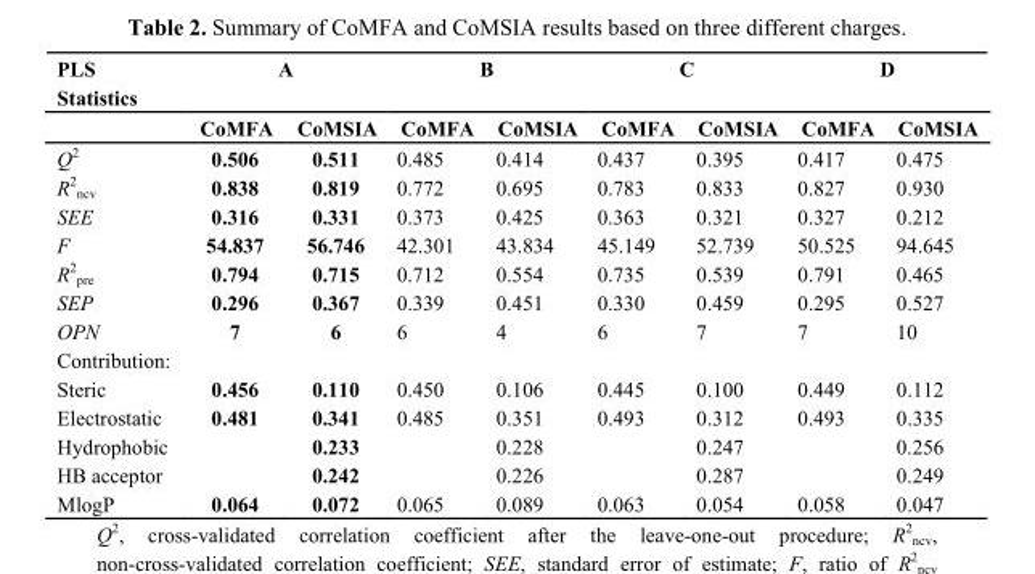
<table><thead><tr><td rowspan="2">PLS Statistics</td><td colspan="2">A</td><td colspan="2">B</td><td colspan="2">C</td><td colspan="2">D</td></tr><tr><td>CoMFA</td><td>CoMSIA</td><td>CoMFA</td><td>CoMSIA</td><td>CoMFA</td><td>CoMSIA</td><td>CoMFA</td><td>CoMSIA</td></tr></thead><tbody><tr><td>Q<sup>2</sup></td><td>0.506</td><td>0.511</td><td>0.485</td><td>0.414</td><td>0.437</td><td>0.395</td><td>0.417</td><td>0.475</td></tr><tr><td>R<sup>2</sup> <sub>ncv</sub></td><td>0.838</td><td>0.819</td><td>0.772</td><td>0.695</td><td>0.783</td><td>0.833</td><td>0.827</td><td>0.930</td></tr><tr><td>SEE</td><td>0.316</td><td>0.331</td><td>0.373</td><td>0.425</td><td>0.363</td><td>0.321</td><td>0.327</td><td>0.212</td></tr><tr><td>F</td><td>54.837</td><td>56.746</td><td>42.301</td><td>43.834</td><td>45.149</td><td>52.739</td><td>50.525</td><td>94.645</td></tr><tr><td>R<sup>2</sup> <sub>pre</sub></td><td>0.794</td><td>0.715</td><td>0.712</td><td>0.554</td><td>0.735</td><td>0.539</td><td>0.791</td><td>0.465</td></tr><tr><td>SEP</td><td>0.296</td><td>0.367</td><td>0.339</td><td>0.451</td><td>0.330</td><td>0.459</td><td>0.295</td><td>0.527</td></tr><tr><td>OPN</td><td>7</td><td>6</td><td>6</td><td>4</td><td>6</td><td>7</td><td>7</td><td>10</td></tr><tr><td colspan="9">Contribution:</td></tr><tr><td>Steric</td><td>0.456</td><td>0.110</td><td>0.450</td><td>0.106</td><td>0.445</td><td>0.100</td><td>0.449</td><td>0.112</td></tr><tr><td>Electrostatic</td><td>0.481</td><td>0.341</td><td>0.485</td><td>0.351</td><td>0.493</td><td>0.312</td><td>0.493</td><td>0.335</td></tr><tr><td>Hydrophobic</td><td></td><td>0.233</td><td></td><td>0.228</td><td></td><td>0.247</td><td></td><td>0.256</td></tr><tr><td>HB acceptor</td><td></td><td>0.242</td><td></td><td>0.226</td><td></td><td>0.287</td><td></td><td>0.249</td></tr><tr><td>MlogP</td><td>0.064</td><td>0.072</td><td>0.065</td><td>0.089</td><td>0.063</td><td>0.054</td><td>0.058</td><td>0.047</td></tr></tbody></table>